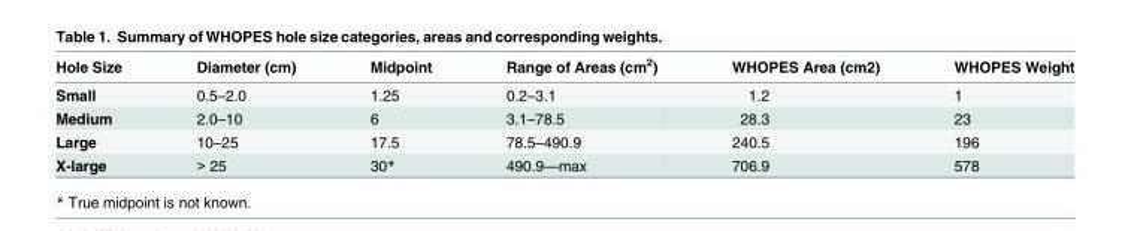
<table><thead><tr><td>Hole Size</td><td>Diameter (cm)</td><td>Midpoint</td><td>Range of Areas (cm<sup>2</sup>)</td><td>WHOPES Area (cm2)</td><td>WHOPES Weight</td></tr></thead><tbody><tr><td>Small</td><td>0.5–2.0</td><td>1.25</td><td>0.2–3.1</td><td>1.2</td><td>1</td></tr><tr><td>Medium</td><td>2.0–10</td><td>6</td><td>3.1–78.5</td><td>28.3</td><td>23</td></tr><tr><td>Large</td><td>10–25</td><td>17.5</td><td>78.5–490.9</td><td>240.5</td><td>196</td></tr><tr><td>X-large</td><td>&gt; 25</td><td>30*</td><td>490.9—max</td><td>706.9</td><td>578</td></tr></tbody></table>